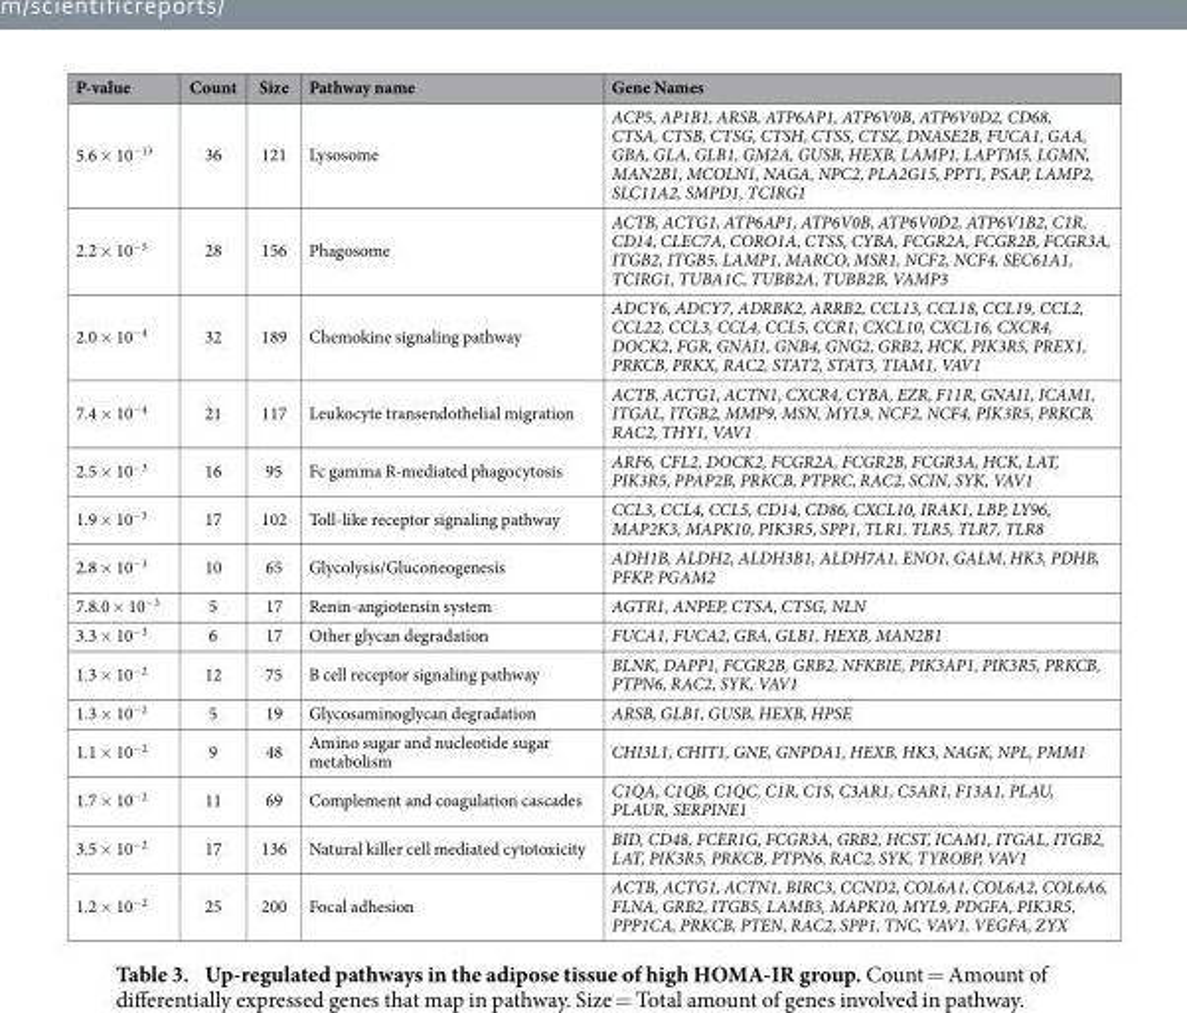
<table><thead><tr><td>P-value</td><td>Count</td><td>Size</td><td>Pathway name</td><td>Gene Names</td></tr></thead><tbody><tr><td>5.6 × 10<sup>−13</sup></td><td>36</td><td>121</td><td>Lysosome</td><td>ACP5, AP1B1, ARSB, ATP6AP1, ATP6V0B, ATP6V0D2, CD68, CTSA, CTSB, CTSG, CTSH, CTSS, CTSZ, DNASE2B, FUCA1, GAA, GBA, GLA, GLB1, GM2A, GUSB, HEXB, LAMP1, LAPTM5, LGMN, MAN2B1, MCOLN1, NAGA, NPC2, PLA2G15, PPT1, PSAP, LAMP2, SLC11A2, SMPD1, TCIRG1</td></tr><tr><td>2.2 × 10<sup>−5</sup></td><td>28</td><td>156</td><td>Phagosome</td><td>ACTB, ACTG1, ATP6AP1, ATP6V0B, ATP6V0D2, ATP6V1B2, C1R, CD14, CLEC7A, CORO1A, CTSS, CYBA, FCGR2A, FCGR2B, FCGR3A, ITGB2, ITGB5, LAMP1, MARCO, MSR1, NCF2, NCF4, SEC61A1, TCIRG1, TUBA1C, TUBB2A, TUBB2B, VAMP3</td></tr><tr><td>2.0 × 10<sup>−4</sup></td><td>32</td><td>189</td><td>Chemokine signaling pathway</td><td>ADCY6, ADCY7, ADRBK2, ARRB2, CCL13, CCL18, CCL19, CCL2, CCL22, CCL3, CCL4, CCL5, CCR1, CXCL10, CXCL16, CXCR4, DOCK2, FGR, GNAI1, GNB4, GNG2, GRB2, HCK, PIK3R5, PREX1, PRKCB, PRKX, RAC2, STAT2, STAT3, TIAM1, VAV1</td></tr><tr><td>7.4 × 10<sup>−4</sup></td><td>21</td><td>117</td><td>Leukocyte transendothelial migration</td><td>ACTB, ACTG1, ACTN1, CXCR4, CYBA, EZR, F11R, GNAI1, ICAM1, ITGAL, ITGB2, MMP9, MSN, MYL9, NCF2, NCF4, PIK3R5, PRKCB, RAC2, THY1, VAV1</td></tr><tr><td>2.5 × 10<sup>−3</sup></td><td>16</td><td>95</td><td>Fc gamma R-mediated phagocytosis</td><td>ARF6, CFL2, DOCK2, FCGR2A, FCGR2B, FCGR3A, HCK, LAT, PIK3R5, PPAP2B, PRKCB, PTPRC, RAC2, SCIN, SYK, VAV1</td></tr><tr><td>1.9 × 10<sup>−3</sup></td><td>17</td><td>102</td><td>Toll-like receptor signaling pathway</td><td>CCL3, CCL4, CCL5, CD14, CD86, CXCL10, IRAK1, LBP, LY96, MAP2K3, MAPK10, PIK3R5, SPP1, TLR1, TLR5, TLR7, TLR8</td></tr><tr><td>2.8 × 10<sup>−3</sup></td><td>10</td><td>65</td><td>Glycolysis/Gluconeogenesis</td><td>ADH1B, ALDH2, ALDH3B1, ALDH7A1, ENO1, GALM, HK3, PDHB, PFKP, PGAM2</td></tr><tr><td>7.8.0 × 10<sup>−3</sup></td><td>5</td><td>17</td><td>Renin-angiotensin system</td><td>AGTR1, ANPEP, CTSA, CTSG, NLN</td></tr><tr><td>3.3 × 10<sup>−3</sup></td><td>6</td><td>17</td><td>Other glycan degradation</td><td>FUCA1, FUCA2, GBA, GLB1, HEXB, MAN2B1</td></tr><tr><td>1.3 × 10<sup>−2</sup></td><td>12</td><td>75</td><td>B cell receptor signaling pathway</td><td>BLNK, DAPP1, FCGR2B, GRB2, NFKBIE, PIK3AP1, PIK3R5, PRKCB, PTPN6, RAC2, SYK, VAV1</td></tr><tr><td>1.3 × 10<sup>−2</sup></td><td>5</td><td>19</td><td>Glycosaminoglycan degradation</td><td>ARSB, GLB1, GUSB, HEXB, HPSE</td></tr><tr><td>1.1 × 10<sup>−2</sup></td><td>9</td><td>48</td><td>Amino sugar and nucleotide sugar metabolism</td><td>CHI3L1, CHIT1, GNE, GNPDA1, HEXB, HK3, NAGK, NPL, PMM1</td></tr><tr><td>1.7 × 10<sup>−2</sup></td><td>11</td><td>69</td><td>Complement and coagulation cascades</td><td>C1QA, C1QB, C1QC, C1R, C1S, C3AR1, C5AR1, F13A1, PLAU, PLAUR, SERPINE1</td></tr><tr><td>3.5 × 10<sup>−2</sup></td><td>17</td><td>136</td><td>Natural killer cell mediated cytotoxicity</td><td>BID, CD48, FCER1G, FCGR3A, GRB2, HCST, ICAM1, ITGAL, ITGB2, LAT, PIK3R5, PRKCB, PTPN6, RAC2, SYK, TYROBP, VAV1</td></tr><tr><td>1.2 × 10<sup>−2</sup></td><td>25</td><td>200</td><td>Focal adhesion</td><td>ACTB, ACTG1, ACTN1, BIRC3, CCND2, COL6A1, COL6A2, COL6A6, FLNA, GRB2, ITGB5, LAMB3, MAPK10, MYL9, PDGFA, PIK3R5, PPP1CA, PRKCB, PTEN, RAC2, SPP1, TNC, VAV1, VEGFA, ZYX</td></tr></tbody></table>